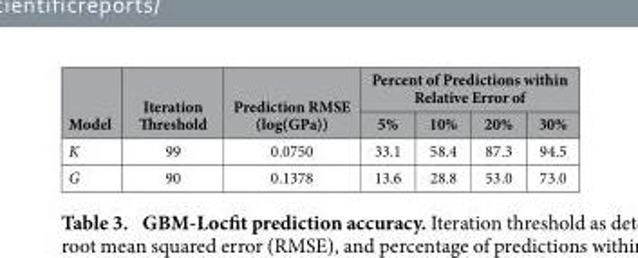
<table><thead><tr><td rowspan="2">Model</td><td rowspan="2">Iteration Threshold</td><td rowspan="2">Prediction RMSE (log(GPa))</td><td colspan="4">Percent of Predictions within Relative Error of</td></tr><tr><td>5%</td><td>10%</td><td>20%</td><td>30%</td></tr></thead><tbody><tr><td>K</td><td>99</td><td>0.0750</td><td>33.1</td><td>58.4</td><td>87.3</td><td>94.5</td></tr><tr><td>G</td><td>90</td><td>0.1378</td><td>13.6</td><td>28.8</td><td>53.0</td><td>73.0</td></tr></tbody></table>